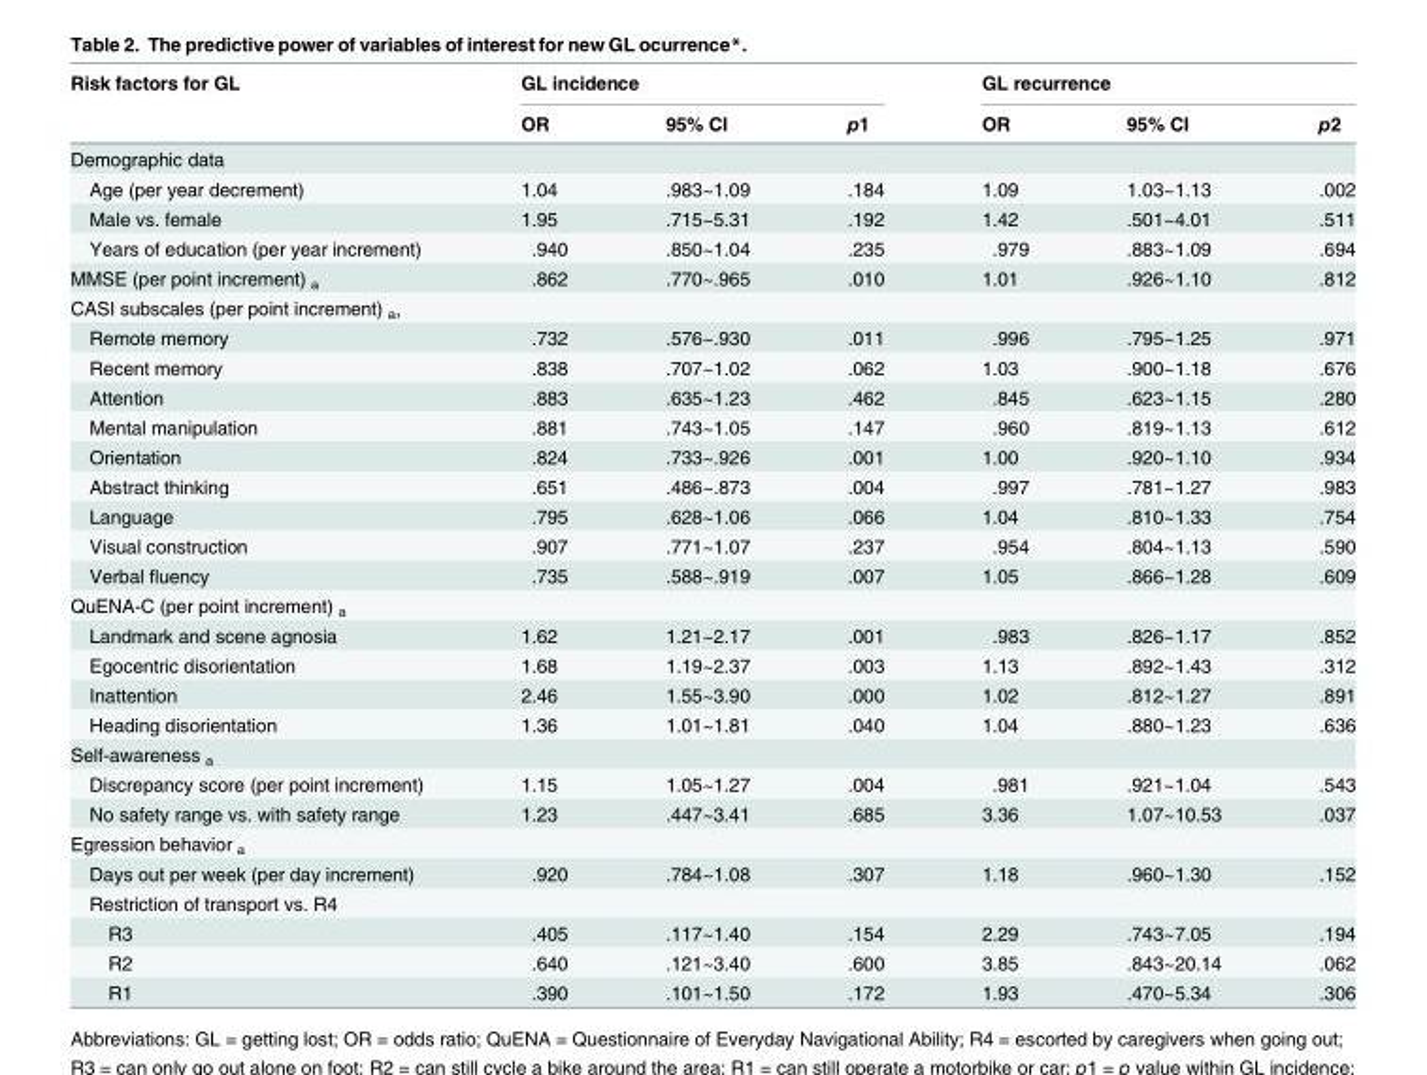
<table><thead><tr><td rowspan="2">Risk factors for GL</td><td colspan="3">GL incidence</td><td colspan="3">GL recurrence</td></tr><tr><td>OR</td><td>95% CI</td><td>p1</td><td>OR</td><td>95% CI</td><td>p2</td></tr></thead><tbody><tr><td colspan="7">Demographic data</td></tr><tr><td>Age (per year decrement)</td><td>1.04</td><td>.983~1.09</td><td>.184</td><td>1.09</td><td>1.03~1.13</td><td>.002</td></tr><tr><td>Male vs. female</td><td>1.95</td><td>.715~5.31</td><td>.192</td><td>1.42</td><td>.501~4.01</td><td>.511</td></tr><tr><td>Years of education (per year increment)</td><td>.940</td><td>.850~1.04</td><td>.235</td><td>.979</td><td>.883~1.09</td><td>.694</td></tr><tr><td>MMSE (per point increment) <sub>a</sub></td><td>.862</td><td>.770~.965</td><td>.010</td><td>1.01</td><td>.926~1.10</td><td>.812</td></tr><tr><td colspan="7">CASI subscales (per point increment) <sub>a</sub>,</td></tr><tr><td>Remote memory</td><td>.732</td><td>.576~.930</td><td>.011</td><td>.996</td><td>.795~1.25</td><td>.971</td></tr><tr><td>Recent memory</td><td>.838</td><td>.707~1.02</td><td>.062</td><td>1.03</td><td>.900~1.18</td><td>.676</td></tr><tr><td>Attention</td><td>.883</td><td>.635~1.23</td><td>.462</td><td>.845</td><td>.623~1.15</td><td>.280</td></tr><tr><td>Mental manipulation</td><td>.881</td><td>.743~1.05</td><td>.147</td><td>.960</td><td>.819~1.13</td><td>.612</td></tr><tr><td>Orientation</td><td>.824</td><td>.733~.926</td><td>.001</td><td>1.00</td><td>.920~1.10</td><td>.934</td></tr><tr><td>Abstract thinking</td><td>.651</td><td>.486~.873</td><td>.004</td><td>.997</td><td>.781~1.27</td><td>.983</td></tr><tr><td>Language</td><td>.795</td><td>.628~1.06</td><td>.066</td><td>1.04</td><td>.810~1.33</td><td>.754</td></tr><tr><td>Visual construction</td><td>.907</td><td>.771~1.07</td><td>.237</td><td>.954</td><td>.804~1.13</td><td>.590</td></tr><tr><td>Verbal fluency</td><td>.735</td><td>.588~.919</td><td>.007</td><td>1.05</td><td>.866~1.28</td><td>.609</td></tr><tr><td colspan="7">QuENA-C (per point increment) <sub>a</sub></td></tr><tr><td>Landmark and scene agnosia</td><td>1.62</td><td>1.21~2.17</td><td>.001</td><td>.983</td><td>.826~1.17</td><td>.852</td></tr><tr><td>Egocentric disorientation</td><td>1.68</td><td>1.19~2.37</td><td>.003</td><td>1.13</td><td>.892~1.43</td><td>.312</td></tr><tr><td>Inattention</td><td>2.46</td><td>1.55~3.90</td><td>.000</td><td>1.02</td><td>.812~1.27</td><td>.891</td></tr><tr><td>Heading disorientation</td><td>1.36</td><td>1.01~1.81</td><td>.040</td><td>1.04</td><td>.880~1.23</td><td>.636</td></tr><tr><td colspan="7">Self-awareness <sub>a</sub></td></tr><tr><td>Discrepancy score (per point increment)</td><td>1.15</td><td>1.05~1.27</td><td>.004</td><td>.981</td><td>.921~1.04</td><td>.543</td></tr><tr><td>No safety range vs. with safety range</td><td>1.23</td><td>.447~3.41</td><td>.685</td><td>3.36</td><td>1.07~10.53</td><td>.037</td></tr><tr><td colspan="7">Egression behavior <sub>a</sub></td></tr><tr><td>Days out per week (per day increment)</td><td>.920</td><td>.784~1.08</td><td>.307</td><td>1.18</td><td>.960~1.30</td><td>.152</td></tr><tr><td colspan="7">Restriction of transport vs. R4</td></tr><tr><td>R3</td><td>.405</td><td>.117~1.40</td><td>.154</td><td>2.29</td><td>.743~7.05</td><td>.194</td></tr><tr><td>R2</td><td>.640</td><td>.121~3.40</td><td>.600</td><td>3.85</td><td>.843~20.14</td><td>.062</td></tr><tr><td>R1</td><td>.390</td><td>.101~1.50</td><td>.172</td><td>1.93</td><td>.470~5.34</td><td>.306</td></tr></tbody></table>